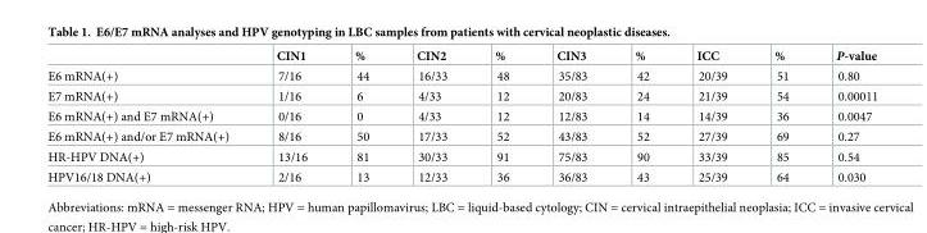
<table><thead><tr><td></td><td>CIN1</td><td>%</td><td>CIN2</td><td>%</td><td>CIN3</td><td>%</td><td>ICC</td><td>%</td><td>P-value</td></tr></thead><tbody><tr><td>E6 mRNA(+)</td><td>7/16</td><td>44</td><td>16/33</td><td>48</td><td>35/83</td><td>42</td><td>20/39</td><td>51</td><td>0.80</td></tr><tr><td>E7 mRNA(+)</td><td>1/16</td><td>6</td><td>4/33</td><td>12</td><td>20/83</td><td>24</td><td>21/39</td><td>54</td><td>0.00011</td></tr><tr><td>E6 mRNA(+) and E7 mRNA(+)</td><td>0/16</td><td>0</td><td>4/33</td><td>12</td><td>12/83</td><td>14</td><td>14/39</td><td>36</td><td>0.0047</td></tr><tr><td>E6 mRNA(+) and/or E7 mRNA(+)</td><td>8/16</td><td>50</td><td>17/33</td><td>52</td><td>43/83</td><td>52</td><td>27/39</td><td>69</td><td>0.27</td></tr><tr><td>HR-HPV DNA(+)</td><td>13/16</td><td>81</td><td>30/33</td><td>91</td><td>75/83</td><td>90</td><td>33/39</td><td>85</td><td>0.54</td></tr><tr><td>HPV16/18 DNA(+)</td><td>2/16</td><td>13</td><td>12/33</td><td>36</td><td>36/83</td><td>43</td><td>25/39</td><td>64</td><td>0.030</td></tr></tbody></table>